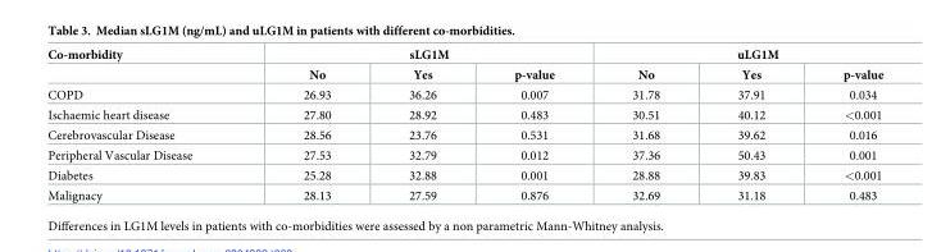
<table><thead><tr><td rowspan="2">Co-morbidity</td><td colspan="3">sLG1M</td><td colspan="3">uLG1M</td></tr><tr><td>No</td><td>Yes</td><td>p-value</td><td>No</td><td>Yes</td><td>p-value</td></tr></thead><tbody><tr><td>COPD</td><td>26.93</td><td>36.26</td><td>0.007</td><td>31.78</td><td>37.91</td><td>0.034</td></tr><tr><td>Ischaemic heart disease</td><td>27.80</td><td>28.92</td><td>0.483</td><td>30.51</td><td>40.12</td><td>&lt;0.001</td></tr><tr><td>Cerebrovascular Disease</td><td>28.56</td><td>23.76</td><td>0.531</td><td>31.68</td><td>39.62</td><td>0.016</td></tr><tr><td>Peripheral Vascular Disease</td><td>27.53</td><td>32.79</td><td>0.012</td><td>37.36</td><td>50.43</td><td>0.001</td></tr><tr><td>Diabetes</td><td>25.28</td><td>32.88</td><td>0.001</td><td>28.88</td><td>39.83</td><td>&lt;0.001</td></tr><tr><td>Malignacy</td><td>28.13</td><td>27.59</td><td>0.876</td><td>32.69</td><td>31.18</td><td>0.483</td></tr></tbody></table>